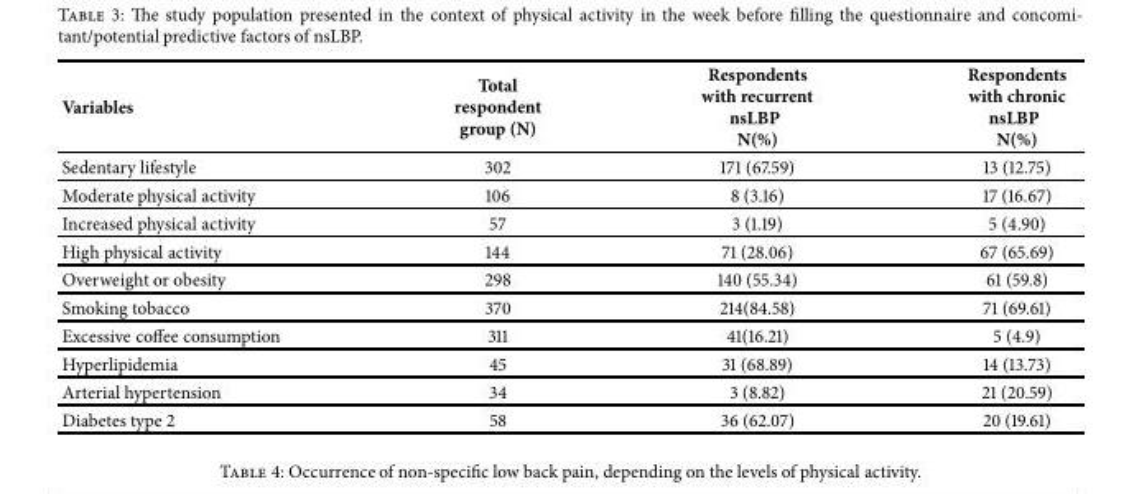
<table><thead><tr><td>Variables</td><td>Total respondent group (N)</td><td>Respondents with recurrent nsLBP N(%)</td><td>Respondents with chronic nsLBP N(%)</td></tr></thead><tbody><tr><td>Sedentary lifestyle</td><td>302</td><td>171 (67.59)</td><td>13 (12.75)</td></tr><tr><td>Moderate physical activity</td><td>106</td><td>8 (3.16)</td><td>17 (16.67)</td></tr><tr><td>Increased physical activity</td><td>57</td><td>3 (1.19)</td><td>5 (4.90)</td></tr><tr><td>High physical activity</td><td>144</td><td>71 (28.06)</td><td>67 (65.69)</td></tr><tr><td>Overweight or obesity</td><td>298</td><td>140 (55.34)</td><td>61 (59.8)</td></tr><tr><td>Smoking tobacco</td><td>370</td><td>214(84.58)</td><td>71 (69.61)</td></tr><tr><td>Excessive coffee consumption</td><td>311</td><td>41(16.21)</td><td>5 (4.9)</td></tr><tr><td>Hyperlipidemia</td><td>45</td><td>31 (68.89)</td><td>14 (13.73)</td></tr><tr><td>Arterial hypertension</td><td>34</td><td>3 (8.82)</td><td>21 (20.59)</td></tr><tr><td>Diabetes type 2</td><td>58</td><td>36 (62.07)</td><td>20 (19.61)</td></tr></tbody></table>